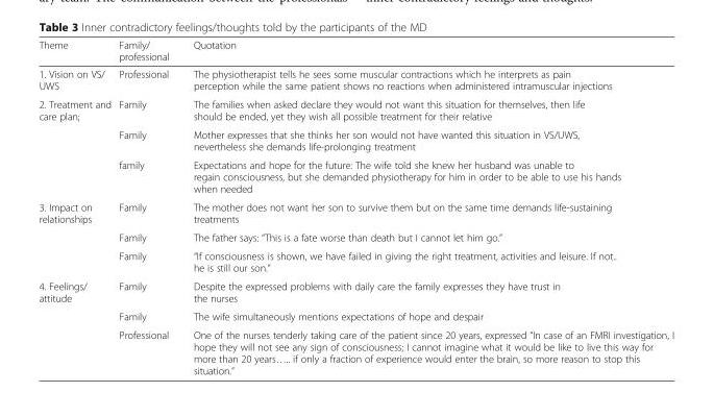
<table><thead><tr><td>Theme</td><td>Family/ professional</td><td>Quotation</td></tr></thead><tbody><tr><td>1. Vision on VS/ UWS</td><td>Professional</td><td>The physiotherapist tells he sees some muscular contractions which he interprets as pain perception while the same patient shows no reactions when administered intramuscular injections</td></tr><tr><td rowspan="3">2. Treatment and care plan;</td><td>Family</td><td>The families when asked declare they would not want this situation for themselves, then life should be ended, yet they wish all possible treatment for their relative</td></tr><tr><td>Family</td><td>Mother expresses that she thinks her son would not have wanted this situation in VS/UWS, nevertheless she demands life-prolonging treatment</td></tr><tr><td>family</td><td>Expectations and hope for the future: The wife told she knew her husband was unable to regain consciousness, but she demanded physiotherapy for him in order to be able to use his hands when needed</td></tr><tr><td rowspan="3">3. Impact on relationships</td><td>Family</td><td>The mother does not want her son to survive them but on the same time demands life-sustaining treatments</td></tr><tr><td>Family</td><td>The father says: “This is a fate worse than death but I cannot let him go.”</td></tr><tr><td>Family</td><td>“If consciousness is shown, we have failed in giving the right treatment, activities and leisure. If not.. he is still our son.”</td></tr><tr><td rowspan="3">4. Feelings/ attitude</td><td>Family</td><td>Despite the expressed problems with daily care the family expresses they have trust in the nurses</td></tr><tr><td>Family</td><td>The wife simultaneously mentions expectations of hope and despair</td></tr><tr><td>Professional</td><td>One of the nurses tenderly taking care of the patient since 20 years, expressed “In case of an FMRI investigation, I hope they will not see any sign of consciousness; I cannot imagine what it would be like to live this way for more than 20 years….. if only a fraction of experience would enter the brain, so more reason to stop this situation.”</td></tr></tbody></table>